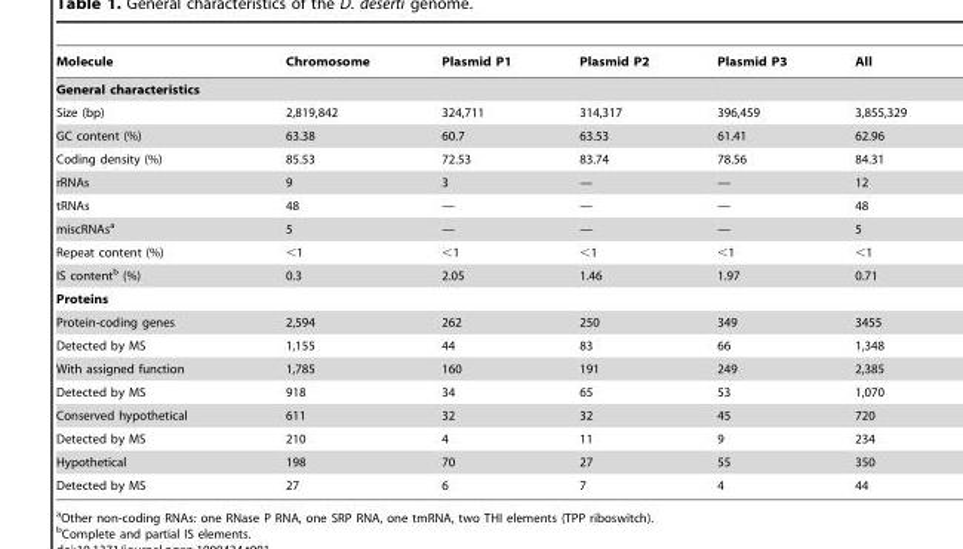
<table><thead><tr><td>Molecule</td><td>Chromosome</td><td>Plasmid P1</td><td>Plasmid P2</td><td>Plasmid P3</td><td>All</td></tr></thead><tbody><tr><td colspan="6">General characteristics</td></tr><tr><td>Size (bp)</td><td>2,819,842</td><td>324,711</td><td>314,317</td><td>396,459</td><td>3,855,329</td></tr><tr><td>GC content (%)</td><td>63.38</td><td>60.7</td><td>63.53</td><td>61.41</td><td>62.96</td></tr><tr><td>Coding density (%)</td><td>85.53</td><td>72.53</td><td>83.74</td><td>78.56</td><td>84.31</td></tr><tr><td>rRNAs</td><td>9</td><td>3</td><td>—</td><td>—</td><td>12</td></tr><tr><td>tRNAs</td><td>48</td><td>—</td><td>—</td><td>—</td><td>48</td></tr><tr><td>miscRNAs<sup>a</sup></td><td>5</td><td>—</td><td>—</td><td>—</td><td>5</td></tr><tr><td>Repeat content (%)</td><td>&lt;1</td><td>&lt;1</td><td>&lt;1</td><td>&lt;1</td><td>&lt;1</td></tr><tr><td>IS content<sup>b</sup> (%)</td><td>0.3</td><td>2.05</td><td>1.46</td><td>1.97</td><td>0.71</td></tr><tr><td colspan="6">Proteins</td></tr><tr><td>Protein-coding genes</td><td>2,594</td><td>262</td><td>250</td><td>349</td><td>3455</td></tr><tr><td>Detected by MS</td><td>1,155</td><td>44</td><td>83</td><td>66</td><td>1,348</td></tr><tr><td>With assigned function</td><td>1,785</td><td>160</td><td>191</td><td>249</td><td>2,385</td></tr><tr><td>Detected by MS</td><td>918</td><td>34</td><td>65</td><td>53</td><td>1,070</td></tr><tr><td>Conserved hypothetical</td><td>611</td><td>32</td><td>32</td><td>45</td><td>720</td></tr><tr><td>Detected by MS</td><td>210</td><td>4</td><td>11</td><td>9</td><td>234</td></tr><tr><td>Hypothetical</td><td>198</td><td>70</td><td>27</td><td>55</td><td>350</td></tr><tr><td>Detected by MS</td><td>27</td><td>6</td><td>7</td><td>4</td><td>44</td></tr></tbody></table>